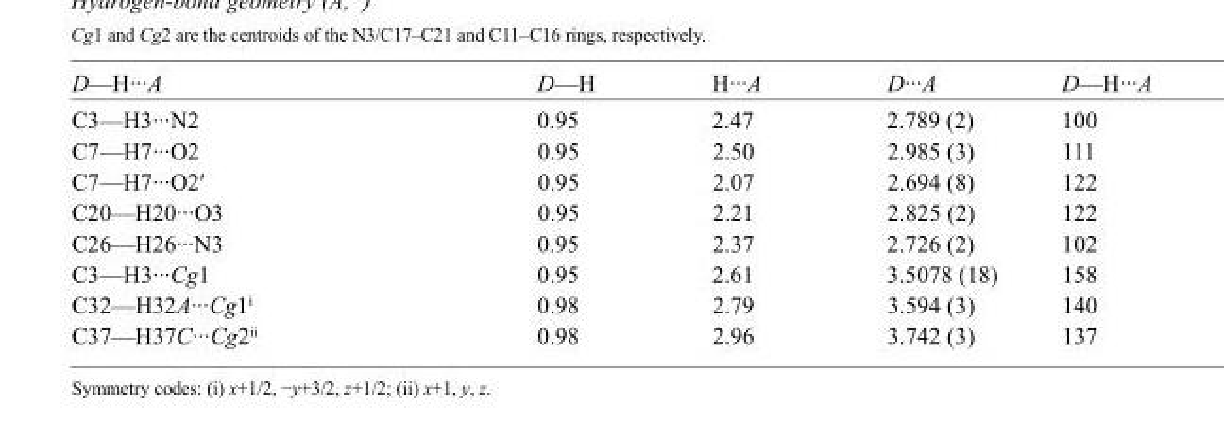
<table><tbody><tr><td>D—H···A</td><td>D—H</td><td>H···A</td><td>D···A</td><td>D—H···A</td></tr><tr><td>C3—H3···N2</td><td>0.95</td><td>2.47</td><td>2.789 (2)</td><td>100</td></tr><tr><td>C7—H7···O2</td><td>0.95</td><td>2.50</td><td>2.985 (3)</td><td>111</td></tr><tr><td>C7—H7···O2′</td><td>0.95</td><td>2.07</td><td>2.694 (8)</td><td>122</td></tr><tr><td>C20—H20···O3</td><td>0.95</td><td>2.21</td><td>2.825 (2)</td><td>122</td></tr><tr><td>C26—H26···N3</td><td>0.95</td><td>2.37</td><td>2.726 (2)</td><td>102</td></tr><tr><td>C3—H3···Cg1</td><td>0.95</td><td>2.61</td><td>3.5078 (18)</td><td>158</td></tr><tr><td>C32—H32A···Cg1<sup>i</sup></td><td>0.98</td><td>2.79</td><td>3.594 (3)</td><td>140</td></tr><tr><td>C37—H37C···Cg2<sup>ii</sup></td><td>0.98</td><td>2.96</td><td>3.742 (3)</td><td>137</td></tr></tbody></table>